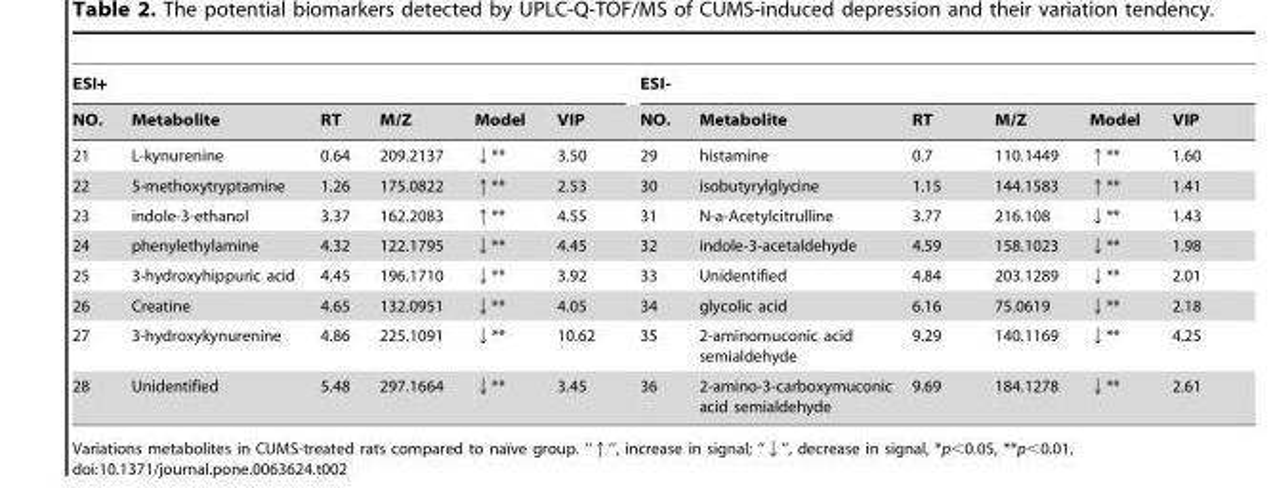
<table><thead><tr><td colspan="6">ESI+</td><td colspan="6">ESI-</td></tr><tr><td>NO.</td><td>Metabolite</td><td>RT</td><td>M/Z</td><td>Model</td><td>VIP</td><td>NO.</td><td>Metabolite</td><td>RT</td><td>M/Z</td><td>Model</td><td>VIP</td></tr></thead><tbody><tr><td>21</td><td>L-kynurenine</td><td>0.64</td><td>209.2137</td><td>↓**</td><td>3.50</td><td>29</td><td>histamine</td><td>0.7</td><td>110.1449</td><td>↑**</td><td>1.60</td></tr><tr><td>22</td><td>5-methoxytryptamine</td><td>1.26</td><td>175.0822</td><td>↑**</td><td>2.53</td><td>30</td><td>isobutyrylglycine</td><td>1.15</td><td>144.1583</td><td>↑**</td><td>1.41</td></tr><tr><td>23</td><td>indole-3-ethanol</td><td>3.37</td><td>162.2083</td><td>↑**</td><td>4.55</td><td>31</td><td>N-a-Acetylcitrulline</td><td>3.77</td><td>216.108</td><td>↓**</td><td>1.43</td></tr><tr><td>24</td><td>phenylethylamine</td><td>4.32</td><td>122.1795</td><td>↓**</td><td>4.45</td><td>32</td><td>indole-3-acetaldehyde</td><td>4.59</td><td>158.1023</td><td>↓**</td><td>1.98</td></tr><tr><td>25</td><td>3-hydroxyhippuric acid</td><td>4.45</td><td>196.1710</td><td>↓**</td><td>3.92</td><td>33</td><td>Unidentified</td><td>4.84</td><td>203.1289</td><td>↓**</td><td>2.01</td></tr><tr><td>26</td><td>Creatine</td><td>4.65</td><td>132.0951</td><td>↓**</td><td>4.05</td><td>34</td><td>glycolic acid</td><td>6.16</td><td>75.0619</td><td>↓**</td><td>2.18</td></tr><tr><td>27</td><td>3-hydroxykynurenine</td><td>4.86</td><td>225.1091</td><td>↓**</td><td>10.62</td><td>35</td><td>2-aminomuconic acid semialdehyde</td><td>9.29</td><td>140.1169</td><td>↓**</td><td>4.25</td></tr><tr><td>28</td><td>Unidentified</td><td>5.48</td><td>297.1664</td><td>↓**</td><td>3.45</td><td>36</td><td>2-amino-3-carboxymuconic acid semialdehyde</td><td>9.69</td><td>184.1278</td><td>↓**</td><td>2.61</td></tr></tbody></table>